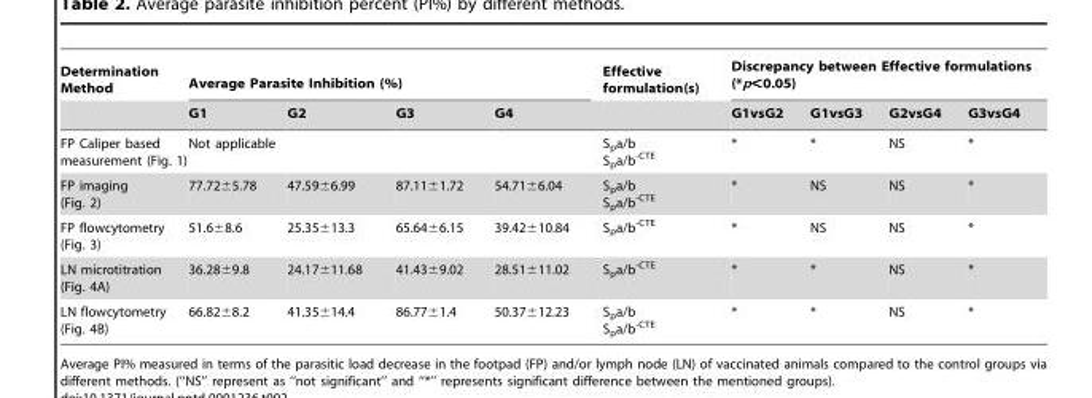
<table><thead><tr><td rowspan="2">Determination Method</td><td colspan="4">Average Parasite Inhibition (%)</td><td rowspan="2">Effective formulation(s)</td><td colspan="4">Discrepancy between Effective formulations (*p&lt;0.05)</td></tr><tr><td>G1</td><td>G2</td><td>G3</td><td>G4</td><td>G1vsG2</td><td>G1vsG3</td><td>G2vsG4</td><td>G3vsG4</td></tr></thead><tbody><tr><td>FP Caliper based measurement (Fig. 1)</td><td colspan="4">Not applicable</td><td>S<sub>p</sub>a/b S<sub>p</sub>a/b<sup>-CTE</sup></td><td>*</td><td>*</td><td>NS</td><td>*</td></tr><tr><td>FP imaging (Fig. 2)</td><td>77.72±5.78</td><td>47.59±6.99</td><td>87.11±1.72</td><td>54.71±6.04</td><td>S<sub>p</sub>a/b S<sub>p</sub>a/b<sup>-CTE</sup></td><td>*</td><td>NS</td><td>NS</td><td>*</td></tr><tr><td>FP flowcytometry (Fig. 3)</td><td>51.6±8.6</td><td>25.35±13.3</td><td>65.64±6.15</td><td>39.42±10.84</td><td>S<sub>p</sub>a/b<sup>-CTE</sup></td><td>*</td><td>NS</td><td>NS</td><td>*</td></tr><tr><td>LN microtitration (Fig. 4A)</td><td>36.28±9.8</td><td>24.17±11.68</td><td>41.43±9.02</td><td>28.51±11.02</td><td>S<sub>p</sub>a/b<sup>-CTE</sup></td><td>*</td><td>*</td><td>NS</td><td>*</td></tr><tr><td>LN flowcytometry (Fig. 4B)</td><td>66.82±8.2</td><td>41.35±14.4</td><td>86.77±1.4</td><td>50.37±12.23</td><td>S<sub>p</sub>a/b S<sub>p</sub>a/b<sup>-CTE</sup></td><td>*</td><td>*</td><td>NS</td><td>*</td></tr></tbody></table>